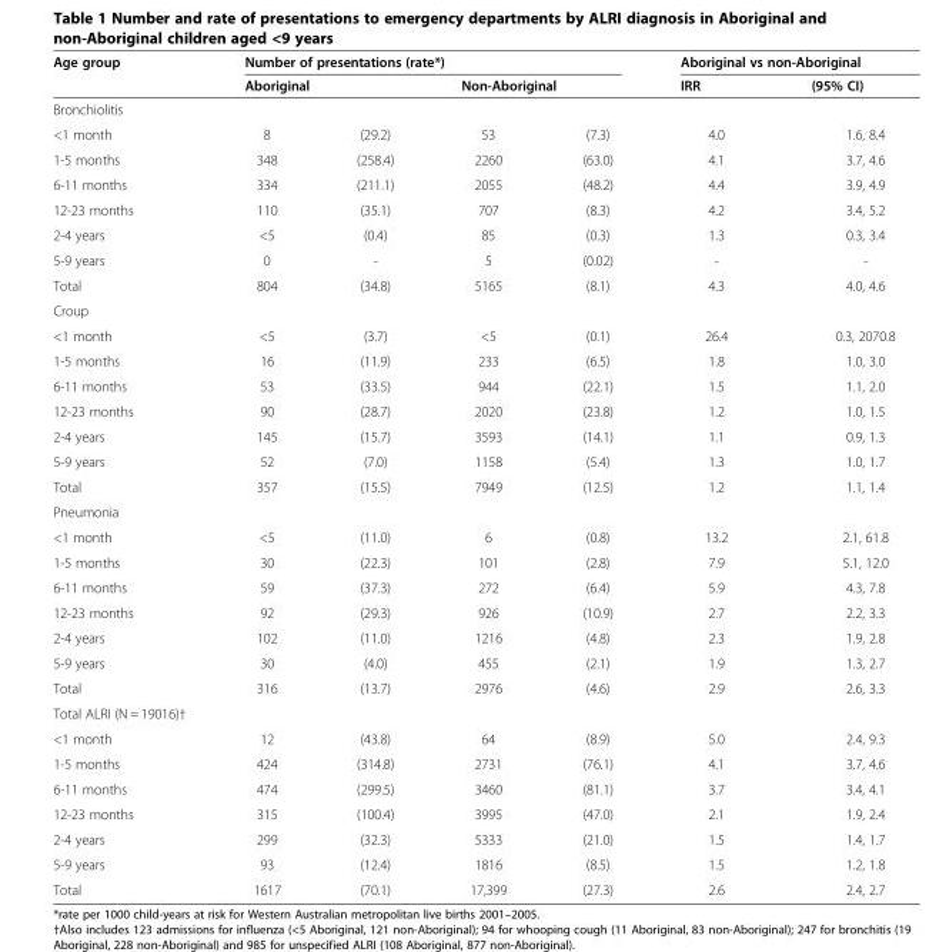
<table><thead><tr><td rowspan="2">Age group</td><td colspan="4">Number of presentations (rate*)</td><td colspan="2">Aboriginal vs non-Aboriginal</td></tr><tr><td>Aboriginal</td><td></td><td>Non-Aboriginal</td><td></td><td>IRR</td><td>(95% CI)</td></tr></thead><tbody><tr><td colspan="7">Bronchiolitis</td></tr><tr><td>&lt;1 month</td><td>8</td><td>(29.2)</td><td>53</td><td>(7.3)</td><td>4.0</td><td>1.6, 8.4</td></tr><tr><td>1-5 months</td><td>348</td><td>(258.4)</td><td>2260</td><td>(63.0)</td><td>4.1</td><td>3.7, 4.6</td></tr><tr><td>6-11 months</td><td>334</td><td>(211.1)</td><td>2055</td><td>(48.2)</td><td>4.4</td><td>3.9, 4.9</td></tr><tr><td>12-23 months</td><td>110</td><td>(35.1)</td><td>707</td><td>(8.3)</td><td>4.2</td><td>3.4, 5.2</td></tr><tr><td>2-4 years</td><td>&lt;5</td><td>(0.4)</td><td>85</td><td>(0.3)</td><td>1.3</td><td>0.3, 3.4</td></tr><tr><td>5-9 years</td><td>0</td><td>-</td><td>5</td><td>(0.02)</td><td>-</td><td>-</td></tr><tr><td>Total</td><td>804</td><td>(34.8)</td><td>5165</td><td>(8.1)</td><td>4.3</td><td>4.0, 4.6</td></tr><tr><td colspan="7">Croup</td></tr><tr><td>&lt;1 month</td><td>&lt;5</td><td>(3.7)</td><td>&lt;5</td><td>(0.1)</td><td>26.4</td><td>0.3, 2070.8</td></tr><tr><td>1-5 months</td><td>16</td><td>(11.9)</td><td>233</td><td>(6.5)</td><td>1.8</td><td>1.0, 3.0</td></tr><tr><td>6-11 months</td><td>53</td><td>(33.5)</td><td>944</td><td>(22.1)</td><td>1.5</td><td>1.1, 2.0</td></tr><tr><td>12-23 months</td><td>90</td><td>(28.7)</td><td>2020</td><td>(23.8)</td><td>1.2</td><td>1.0, 1.5</td></tr><tr><td>2-4 years</td><td>145</td><td>(15.7)</td><td>3593</td><td>(14.1)</td><td>1.1</td><td>0.9, 1.3</td></tr><tr><td>5-9 years</td><td>52</td><td>(7.0)</td><td>1158</td><td>(5.4)</td><td>1.3</td><td>1.0, 1.7</td></tr><tr><td>Total</td><td>357</td><td>(15.5)</td><td>7949</td><td>(12.5)</td><td>1.2</td><td>1.1, 1.4</td></tr><tr><td colspan="7">Pneumonia</td></tr><tr><td>&lt;1 month</td><td>&lt;5</td><td>(11.0)</td><td>6</td><td>(0.8)</td><td>13.2</td><td>2.1, 61.8</td></tr><tr><td>1-5 months</td><td>30</td><td>(22.3)</td><td>101</td><td>(2.8)</td><td>7.9</td><td>5.1, 12.0</td></tr><tr><td>6-11 months</td><td>59</td><td>(37.3)</td><td>272</td><td>(6.4)</td><td>5.9</td><td>4.3, 7.8</td></tr><tr><td>12-23 months</td><td>92</td><td>(29.3)</td><td>926</td><td>(10.9)</td><td>2.7</td><td>2.2, 3.3</td></tr><tr><td>2-4 years</td><td>102</td><td>(11.0)</td><td>1216</td><td>(4.8)</td><td>2.3</td><td>1.9, 2.8</td></tr><tr><td>5-9 years</td><td>30</td><td>(4.0)</td><td>455</td><td>(2.1)</td><td>1.9</td><td>1.3, 2.7</td></tr><tr><td>Total</td><td>316</td><td>(13.7)</td><td>2976</td><td>(4.6)</td><td>2.9</td><td>2.6, 3.3</td></tr><tr><td colspan="7">Total ALRI (N = 19016)†</td></tr><tr><td>&lt;1 month</td><td>12</td><td>(43.8)</td><td>64</td><td>(8.9)</td><td>5.0</td><td>2.4, 9.3</td></tr><tr><td>1-5 months</td><td>424</td><td>(314.8)</td><td>2731</td><td>(76.1)</td><td>4.1</td><td>3.7, 4.6</td></tr><tr><td>6-11 months</td><td>474</td><td>(299.5)</td><td>3460</td><td>(81.1)</td><td>3.7</td><td>3.4, 4.1</td></tr><tr><td>12-23 months</td><td>315</td><td>(100.4)</td><td>3995</td><td>(47.0)</td><td>2.1</td><td>1.9, 2.4</td></tr><tr><td>2-4 years</td><td>299</td><td>(32.3)</td><td>5333</td><td>(21.0)</td><td>1.5</td><td>1.4, 1.7</td></tr><tr><td>5-9 years</td><td>93</td><td>(12.4)</td><td>1816</td><td>(8.5)</td><td>1.5</td><td>1.2, 1.8</td></tr><tr><td>Total</td><td>1617</td><td>(70.1)</td><td>17,399</td><td>(27.3)</td><td>2.6</td><td>2.4, 2.7</td></tr></tbody></table>